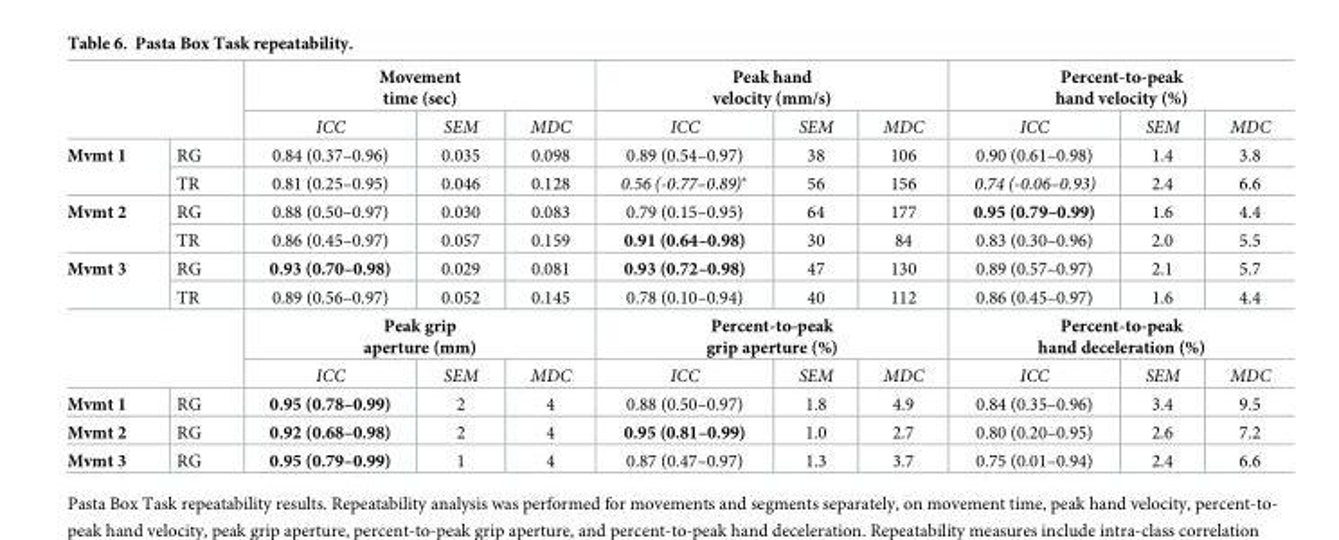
<table><thead><tr><td rowspan="2"></td><td rowspan="2"></td><td colspan="3">Movement time (sec)</td><td colspan="3">Peak hand velocity (mm/s)</td><td colspan="3">Percent-to-peak hand velocity (%)</td></tr><tr><td>ICC</td><td>SEM</td><td>MDC</td><td>ICC</td><td>SEM</td><td>MDC</td><td>ICC</td><td>SEM</td><td>MDC</td></tr></thead><tbody><tr><td rowspan="2">Mvmt 1</td><td>RG</td><td>0.84 (0.37–0.96)</td><td>0.035</td><td>0.098</td><td>0.89 (0.54–0.97)</td><td>38</td><td>106</td><td>0.90 (0.61–0.98)</td><td>1.4</td><td>3.8</td></tr><tr><td>TR</td><td>0.81 (0.25–0.95)</td><td>0.046</td><td>0.128</td><td>0.56 (-0.77–0.89)*</td><td>56</td><td>156</td><td>0.74 (-0.06–0.93)</td><td>2.4</td><td>6.6</td></tr><tr><td rowspan="2">Mvmt 2</td><td>RG</td><td>0.88 (0.50–0.97)</td><td>0.030</td><td>0.083</td><td>0.79 (0.15–0.95)</td><td>64</td><td>177</td><td>0.95 (0.79–0.99)</td><td>1.6</td><td>4.4</td></tr><tr><td>TR</td><td>0.86 (0.45–0.97)</td><td>0.057</td><td>0.159</td><td>0.91 (0.64–0.98)</td><td>30</td><td>84</td><td>0.83 (0.30–0.96)</td><td>2.0</td><td>5.5</td></tr><tr><td rowspan="2">Mvmt 3</td><td>RG</td><td>0.93 (0.70–0.98)</td><td>0.029</td><td>0.081</td><td>0.93 (0.72–0.98)</td><td>47</td><td>130</td><td>0.89 (0.57–0.97)</td><td>2.1</td><td>5.7</td></tr><tr><td>TR</td><td>0.89 (0.56–0.97)</td><td>0.052</td><td>0.145</td><td>0.78 (0.10–0.94)</td><td>40</td><td>112</td><td>0.86 (0.45–0.97)</td><td>1.6</td><td>4.4</td></tr><tr><td rowspan="2" colspan="2"></td><td colspan="3">Peak grip aperture (mm)</td><td colspan="3">Percent-to-peak grip aperture (%)</td><td colspan="3">Percent-to-peak hand deceleration (%)</td></tr><tr><td>ICC</td><td>SEM</td><td>MDC</td><td>ICC</td><td>SEM</td><td>MDC</td><td>ICC</td><td>SEM</td><td>MDC</td></tr><tr><td>Mvmt 1</td><td>RG</td><td>0.95 (0.78–0.99)</td><td>2</td><td>4</td><td>0.88 (0.50–0.97)</td><td>1.8</td><td>4.9</td><td>0.84 (0.35–0.96)</td><td>3.4</td><td>9.5</td></tr><tr><td>Mvmt 2</td><td>RG</td><td>0.92 (0.68–0.98)</td><td>2</td><td>4</td><td>0.95 (0.81–0.99)</td><td>1.0</td><td>2.7</td><td>0.80 (0.20–0.95)</td><td>2.6</td><td>7.2</td></tr><tr><td>Mvmt 3</td><td>RG</td><td>0.95 (0.79–0.99)</td><td>1</td><td>4</td><td>0.87 (0.47–0.97)</td><td>1.3</td><td>3.7</td><td>0.75 (0.01–0.94)</td><td>2.4</td><td>6.6</td></tr></tbody></table>